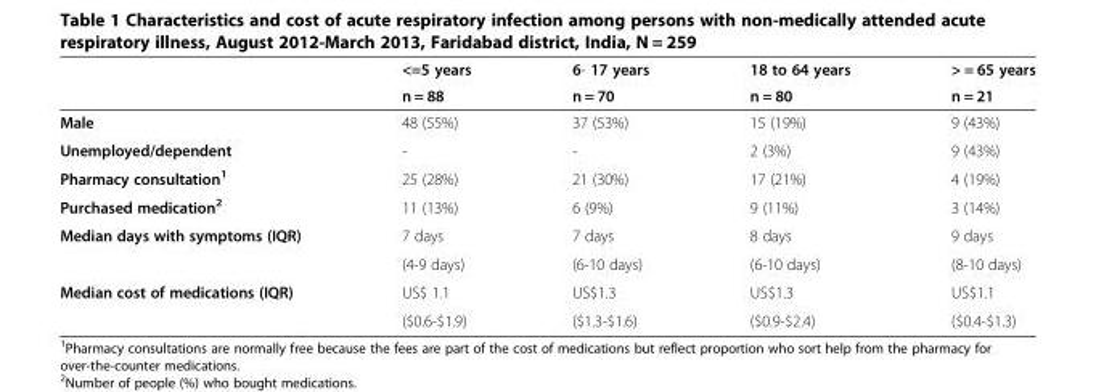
<table><thead><tr><td rowspan="2"></td><td rowspan="2">&lt;=5 years n = 88</td><td rowspan="2">6- 17 years n = 70</td><td rowspan="2">18 to 64 years n = 80</td><td rowspan="2">&gt; = 65 years n = 21</td></tr><tr></tr></thead><tbody><tr><td>Male</td><td>48 (55%)</td><td>37 (53%)</td><td>15 (19%)</td><td>9 (43%)</td></tr><tr><td>Unemployed/dependent</td><td>-</td><td>-</td><td>2 (3%)</td><td>9 (43%)</td></tr><tr><td>Pharmacy consultation<sup>1</sup></td><td>25 (28%)</td><td>21 (30%)</td><td>17 (21%)</td><td>4 (19%)</td></tr><tr><td>Purchased medication<sup>2</sup></td><td>11 (13%)</td><td>6 (9%)</td><td>9 (11%)</td><td>3 (14%)</td></tr><tr><td rowspan="2">Median days with symptoms (IQR)</td><td>7 days</td><td>7 days</td><td>8 days</td><td>9 days</td></tr><tr><td>(4-9 days)</td><td>(6-10 days)</td><td>(6-10 days)</td><td>(8-10 days)</td></tr><tr><td rowspan="2">Median cost of medications (IQR)</td><td>US$ 1.1</td><td>US$1.3</td><td>US$1.3</td><td>US$1.1</td></tr><tr><td>($0.6-$1.9)</td><td>($1.3-$1.6)</td><td>($0.9-$2.4)</td><td>($0.4-$1.3)</td></tr></tbody></table>